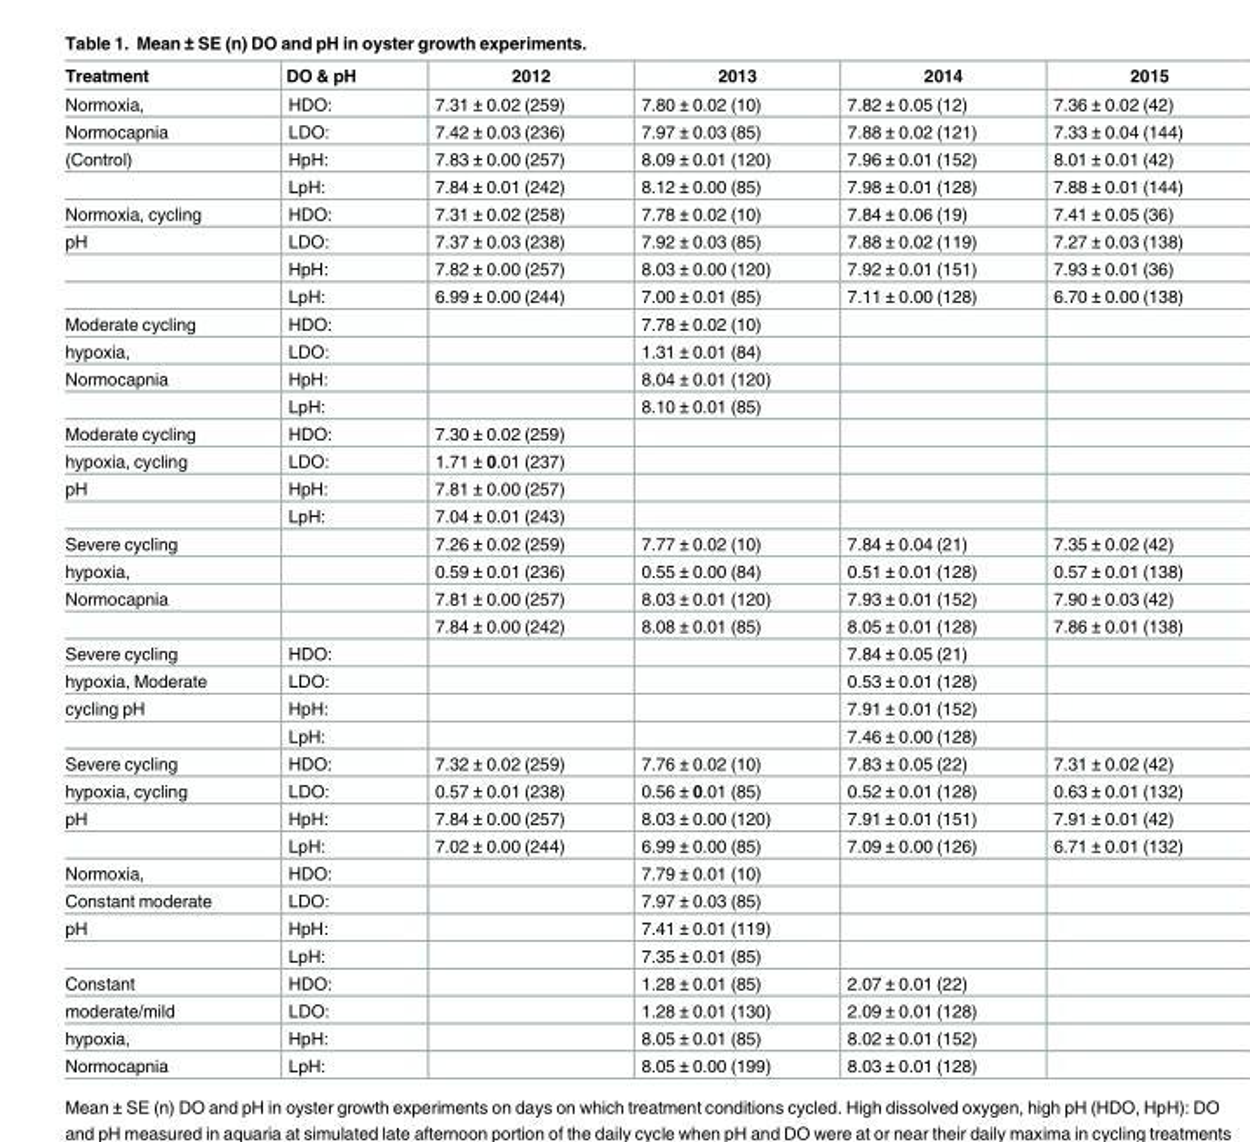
<table><thead><tr><td>Treatment</td><td>DO &amp; pH</td><td>2012</td><td>2013</td><td>2014</td><td>2015</td></tr></thead><tbody><tr><td>Normoxia,</td><td>HDO:</td><td>7.31 ± 0.02 (259)</td><td>7.80 ± 0.02 (10)</td><td>7.82 ± 0.05 (12)</td><td>7.36 ± 0.02 (42)</td></tr><tr><td>Normocapnia</td><td>LDO:</td><td>7.42 ± 0.03 (236)</td><td>7.97 ± 0.03 (85)</td><td>7.88 ± 0.02 (121)</td><td>7.33 ± 0.04 (144)</td></tr><tr><td rowspan="2">(Control)</td><td>HpH:</td><td>7.83 ± 0.00 (257)</td><td>8.09 ± 0.01 (120)</td><td>7.96 ± 0.01 (152)</td><td>8.01 ± 0.01 (42)</td></tr><tr><td>LpH:</td><td>7.84 ± 0.01 (242)</td><td>8.12 ± 0.00 (85)</td><td>7.98 ± 0.01 (128)</td><td>7.88 ± 0.01 (144)</td></tr><tr><td>Normoxia, cycling</td><td>HDO:</td><td>7.31 ± 0.02 (258)</td><td>7.78 ± 0.02 (10)</td><td>7.84 ± 0.06 (19)</td><td>7.41 ± 0.05 (36)</td></tr><tr><td rowspan="3">pH</td><td>LDO:</td><td>7.37 ± 0.03 (238)</td><td>7.92 ± 0.03 (85)</td><td>7.88 ± 0.02 (119)</td><td>7.27 ± 0.03 (138)</td></tr><tr><td>HpH:</td><td>7.82 ± 0.00 (257)</td><td>8.03 ± 0.00 (120)</td><td>7.92 ± 0.01 (151)</td><td>7.93 ± 0.01 (36)</td></tr><tr><td>LpH:</td><td>6.99 ± 0.00 (244)</td><td>7.00 ± 0.01 (85)</td><td>7.11 ± 0.00 (128)</td><td>6.70 ± 0.00 (138)</td></tr><tr><td>Moderate cycling</td><td>HDO:</td><td></td><td>7.78 ± 0.02 (10)</td><td></td><td></td></tr><tr><td>hypoxia,</td><td>LDO:</td><td></td><td>1.31 ± 0.01 (84)</td><td></td><td></td></tr><tr><td rowspan="2">Normocapnia</td><td>HpH:</td><td></td><td>8.04 ± 0.01 (120)</td><td></td><td></td></tr><tr><td>LpH:</td><td></td><td>8.10 ± 0.01 (85)</td><td></td><td></td></tr><tr><td>Moderate cycling</td><td>HDO:</td><td>7.30 ± 0.02 (259)</td><td></td><td></td><td></td></tr><tr><td>hypoxia, cycling</td><td>LDO:</td><td>1.71 ± 0.01 (237)</td><td></td><td></td><td></td></tr><tr><td rowspan="2">pH</td><td>HpH:</td><td>7.81 ± 0.00 (257)</td><td></td><td></td><td></td></tr><tr><td>LpH:</td><td>7.04 ± 0.01 (243)</td><td></td><td></td><td></td></tr><tr><td>Severe cycling</td><td></td><td>7.26 ± 0.02 (259)</td><td>7.77 ± 0.02 (10)</td><td>7.84 ± 0.04 (21)</td><td>7.35 ± 0.02 (42)</td></tr><tr><td>hypoxia,</td><td></td><td>0.59 ± 0.01 (236)</td><td>0.55 ± 0.00 (84)</td><td>0.51 ± 0.01 (128)</td><td>0.57 ± 0.01 (138)</td></tr><tr><td rowspan="2">Normocapnia</td><td></td><td>7.81 ± 0.00 (257)</td><td>8.03 ± 0.01 (120)</td><td>7.93 ± 0.01 (152)</td><td>7.90 ± 0.03 (42)</td></tr><tr><td></td><td>7.84 ± 0.00 (242)</td><td>8.08 ± 0.01 (85)</td><td>8.05 ± 0.01 (128)</td><td>7.86 ± 0.01 (138)</td></tr><tr><td>Severe cycling</td><td>HDO:</td><td></td><td></td><td>7.84 ± 0.05 (21)</td><td></td></tr><tr><td>hypoxia, Moderate</td><td>LDO:</td><td></td><td></td><td>0.53 ± 0.01 (128)</td><td></td></tr><tr><td rowspan="2">cycling pH</td><td>HpH:</td><td></td><td></td><td>7.91 ± 0.01 (152)</td><td></td></tr><tr><td>LpH:</td><td></td><td></td><td>7.46 ± 0.00 (128)</td><td></td></tr><tr><td>Severe cycling</td><td>HDO:</td><td>7.32 ± 0.02 (259)</td><td>7.76 ± 0.02 (10)</td><td>7.83 ± 0.05 (22)</td><td>7.31 ± 0.02 (42)</td></tr><tr><td>hypoxia, cycling</td><td>LDO:</td><td>0.57 ± 0.01 (238)</td><td>0.56 ± 0.01 (85)</td><td>0.52 ± 0.01 (128)</td><td>0.63 ± 0.01 (132)</td></tr><tr><td rowspan="2">pH</td><td>HpH:</td><td>7.84 ± 0.00 (257)</td><td>8.03 ± 0.00 (120)</td><td>7.91 ± 0.01 (151)</td><td>7.91 ± 0.01 (42)</td></tr><tr><td>LpH:</td><td>7.02 ± 0.00 (244)</td><td>6.99 ± 0.00 (85)</td><td>7.09 ± 0.00 (126)</td><td>6.71 ± 0.01 (132)</td></tr><tr><td>Normoxia,</td><td>HDO:</td><td></td><td>7.79 ± 0.01 (10)</td><td></td><td></td></tr><tr><td>Constant moderate</td><td>LDO:</td><td></td><td>7.97 ± 0.03 (85)</td><td></td><td></td></tr><tr><td rowspan="2">pH</td><td>HpH:</td><td></td><td>7.41 ± 0.01 (119)</td><td></td><td></td></tr><tr><td>LpH:</td><td></td><td>7.35 ± 0.01 (85)</td><td></td><td></td></tr><tr><td>Constant</td><td>HDO:</td><td></td><td>1.28 ± 0.01 (85)</td><td>2.07 ± 0.01 (22)</td><td></td></tr><tr><td>moderate/mild</td><td>LDO:</td><td></td><td>1.28 ± 0.01 (130)</td><td>2.09 ± 0.01 (128)</td><td></td></tr><tr><td>hypoxia,</td><td>HpH:</td><td></td><td>8.05 ± 0.01 (85)</td><td>8.02 ± 0.01 (152)</td><td></td></tr><tr><td>Normocapnia</td><td>LpH:</td><td></td><td>8.05 ± 0.00 (199)</td><td>8.03 ± 0.01 (128)</td><td></td></tr></tbody></table>